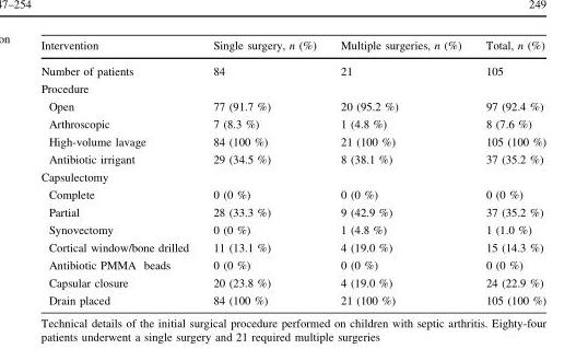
<table><thead><tr><td>Intervention</td><td>Single surgery, n (%)</td><td>Multiple surgeries, n (%)</td><td>Total, n (%)</td></tr></thead><tbody><tr><td>Number of patients</td><td>84</td><td>21</td><td>105</td></tr><tr><td colspan="4">Procedure</td></tr><tr><td>Open</td><td>77 (91.7 %)</td><td>20 (95.2 %)</td><td>97 (92.4 %)</td></tr><tr><td>Arthroscopic</td><td>7 (8.3 %)</td><td>1 (4.8 %)</td><td>8 (7.6 %)</td></tr><tr><td>High-volume lavage</td><td>84 (100 %)</td><td>21 (100 %)</td><td>105 (100 %)</td></tr><tr><td>Antibiotic irrigant</td><td>29 (34.5 %)</td><td>8 (38.1 %)</td><td>37 (35.2 %)</td></tr><tr><td colspan="4">Capsulectomy</td></tr><tr><td>Complete</td><td>0 (0 %)</td><td>0 (0 %)</td><td>0 (0 %)</td></tr><tr><td>Partial</td><td>28 (33.3 %)</td><td>9 (42.9 %)</td><td>37 (35.2 %)</td></tr><tr><td>Synovectomy</td><td>0 (0 %)</td><td>1 (4.8 %)</td><td>1 (1.0 %)</td></tr><tr><td>Cortical window/bone drilled</td><td>11 (13.1 %)</td><td>4 (19.0 %)</td><td>15 (14.3 %)</td></tr><tr><td>Antibiotic PMMA beads</td><td>0 (0 %)</td><td>0 (0 %)</td><td>0 (0 %)</td></tr><tr><td>Capsular closure</td><td>20 (23.8 %)</td><td>4 (19.0 %)</td><td>24 (22.9 %)</td></tr><tr><td>Drain placed</td><td>84 (100 %)</td><td>21 (100 %)</td><td>105 (100 %)</td></tr></tbody></table>